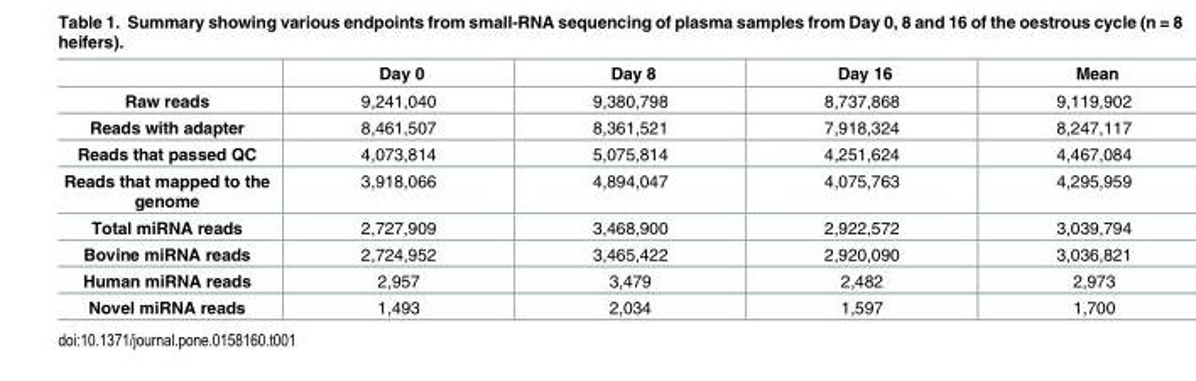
<table><thead><tr><td></td><td>Day 0</td><td>Day 8</td><td>Day 16</td><td>Mean</td></tr></thead><tbody><tr><td>Raw reads</td><td>9,241,040</td><td>9,380,798</td><td>8,737,868</td><td>9,119,902</td></tr><tr><td>Reads with adapter</td><td>8,461,507</td><td>8,361,521</td><td>7,918,324</td><td>8,247,117</td></tr><tr><td>Reads that passed QC</td><td>4,073,814</td><td>5,075,814</td><td>4,251,624</td><td>4,467,084</td></tr><tr><td>Reads that mapped to the genome</td><td>3,918,066</td><td>4,894,047</td><td>4,075,763</td><td>4,295,959</td></tr><tr><td>Total miRNA reads</td><td>2,727,909</td><td>3,468,900</td><td>2,922,572</td><td>3,039,794</td></tr><tr><td>Bovine miRNA reads</td><td>2,724,952</td><td>3,465,422</td><td>2,920,090</td><td>3,036,821</td></tr><tr><td>Human miRNA reads</td><td>2,957</td><td>3,479</td><td>2,482</td><td>2,973</td></tr><tr><td>Novel miRNA reads</td><td>1,493</td><td>2,034</td><td>1,597</td><td>1,700</td></tr></tbody></table>